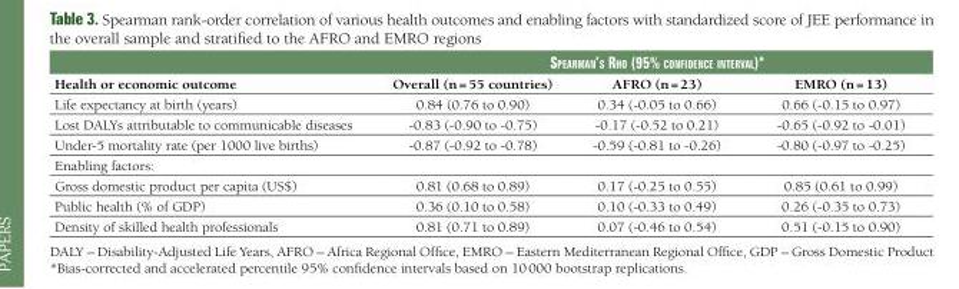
<table><thead><tr><td rowspan="2">Health or economic outcome</td><td colspan="3">SPEARMAn’S RHO (95% cOnFidEncE intERVAl)*</td></tr><tr><td>Overall (n = 55 countries)</td><td>AFRO (n = 23)</td><td>EMRO (n = 13)</td></tr></thead><tbody><tr><td>Life expectancy at birth (years)</td><td>0.84 (0.76 to 0.90)</td><td>0.34 (-0.05 to 0.66)</td><td>0.66 (-0.15 to 0.97)</td></tr><tr><td>Lost DALYs attributable to communicable diseases</td><td>-0.83 (-0.90 to -0.75)</td><td>-0.17 (-0.52 to 0.21)</td><td>-0.65 (-0.92 to -0.01)</td></tr><tr><td>Under-5 mortality rate (per 1000 live births)</td><td>-0.87 (-0.92 to -0.78)</td><td>-0.59 (-0.81 to -0.26)</td><td>-0.80 (-0.97 to -0.25)</td></tr><tr><td colspan="4">Enabling factors:</td></tr><tr><td>Gross domestic product per capita (US$)</td><td>0.81 (0.68 to 0.89)</td><td>0.17 (-0.25 to 0.55)</td><td>0.85 (0.61 to 0.99)</td></tr><tr><td>Public health (% of GDP)</td><td>0.36 (0.10 to 0.58)</td><td>0.10 (-0.33 to 0.49)</td><td>0.26 (-0.35 to 0.73)</td></tr><tr><td>Density of skilled health professionals</td><td>0.81 (0.71 to 0.89)</td><td>0.07 (-0.46 to 0.54)</td><td>0.51 (-0.15 to 0.90)</td></tr></tbody></table>